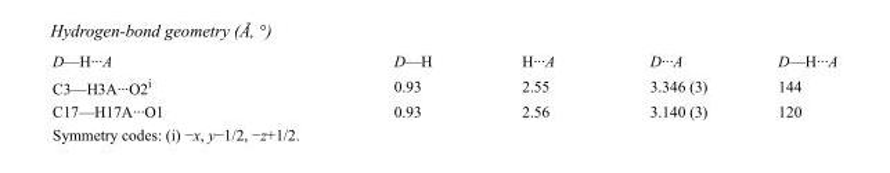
<table><tbody><tr><td>D—H···A</td><td>D—H</td><td>H···A</td><td>D···A</td><td>D—H···A</td></tr><tr><td>C3—H3A···O2<sup>i</sup></td><td>0.93</td><td>2.55</td><td>3.346 (3)</td><td>144</td></tr><tr><td>C17—H17A···O1</td><td>0.93</td><td>2.56</td><td>3.140 (3)</td><td>120</td></tr></tbody></table>